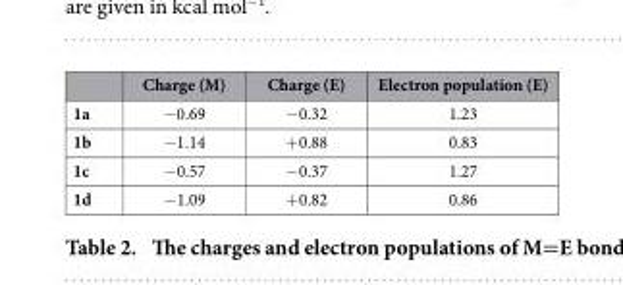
<table><thead><tr><td></td><td>Charge (M)</td><td>Charge (E)</td><td>Electron population (E)</td></tr></thead><tbody><tr><td>1a</td><td>− 0.69</td><td>− 0.32</td><td>1.23</td></tr><tr><td>1b</td><td>− 1.14</td><td>+ 0.88</td><td>0.83</td></tr><tr><td>1c</td><td>− 0.57</td><td>− 0.37</td><td>1.27</td></tr><tr><td>1d</td><td>− 1.09</td><td>+ 0.82</td><td>0.86</td></tr></tbody></table>